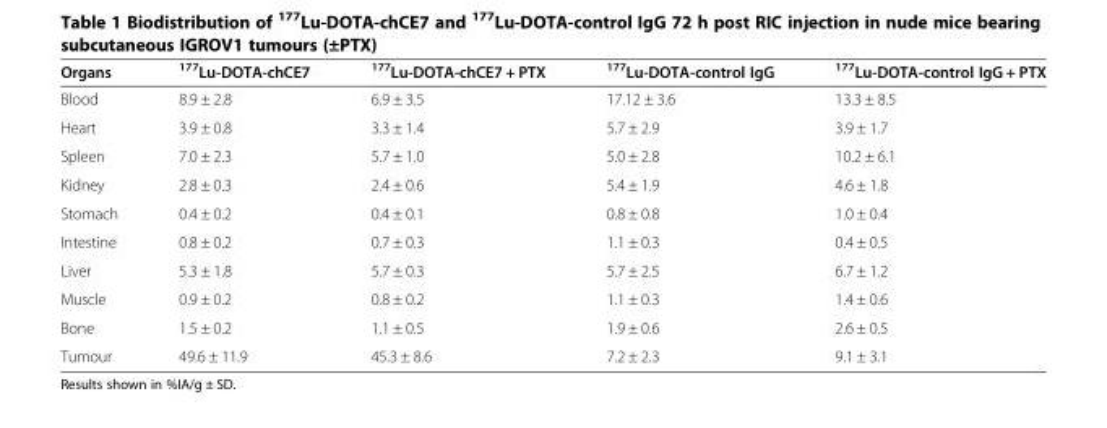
<table><thead><tr><td>Organs</td><td><sup>177</sup>Lu-DOTA-chCE7</td><td><sup>177</sup>Lu-DOTA-chCE7 + PTX</td><td><sup>177</sup>Lu-DOTA-control IgG</td><td><sup>177</sup>Lu-DOTA-control IgG + PTX</td></tr></thead><tbody><tr><td>Blood</td><td>8.9 ± 2.8</td><td>6.9 ± 3.5</td><td>17.12 ± 3.6</td><td>13.3 ± 8.5</td></tr><tr><td>Heart</td><td>3.9 ± 0.8</td><td>3.3 ± 1.4</td><td>5.7 ± 2.9</td><td>3.9 ± 1.7</td></tr><tr><td>Spleen</td><td>7.0 ± 2.3</td><td>5.7 ± 1.0</td><td>5.0 ± 2.8</td><td>10.2 ± 6.1</td></tr><tr><td>Kidney</td><td>2.8 ± 0.3</td><td>2.4 ± 0.6</td><td>5.4 ± 1.9</td><td>4.6 ± 1.8</td></tr><tr><td>Stomach</td><td>0.4 ± 0.2</td><td>0.4 ± 0.1</td><td>0.8 ± 0.8</td><td>1.0 ± 0.4</td></tr><tr><td>Intestine</td><td>0.8 ± 0.2</td><td>0.7 ± 0.3</td><td>1.1 ± 0.3</td><td>0.4 ± 0.5</td></tr><tr><td>Liver</td><td>5.3 ± 1.8</td><td>5.7 ± 0.3</td><td>5.7 ± 2.5</td><td>6.7 ± 1.2</td></tr><tr><td>Muscle</td><td>0.9 ± 0.2</td><td>0.8 ± 0.2</td><td>1.1 ± 0.3</td><td>1.4 ± 0.6</td></tr><tr><td>Bone</td><td>1.5 ± 0.2</td><td>1.1 ± 0.5</td><td>1.9 ± 0.6</td><td>2.6 ± 0.5</td></tr><tr><td>Tumour</td><td>49.6 ± 11.9</td><td>45.3 ± 8.6</td><td>7.2 ± 2.3</td><td>9.1 ± 3.1</td></tr></tbody></table>